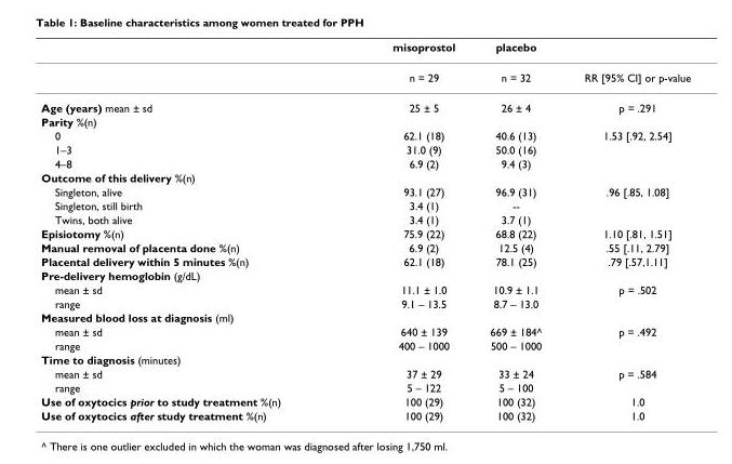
<table><thead><tr><td></td><td>misoprostol</td><td>placebo</td><td></td></tr></thead><tbody><tr><td></td><td>n = 29</td><td>n = 32</td><td>RR [95% CI] or p-value</td></tr><tr><td>Age (years) mean ± sd</td><td>25 ± 5</td><td>26 ± 4</td><td>p = .291</td></tr><tr><td colspan="4">Parity %(n)</td></tr><tr><td>0</td><td>62.1 (18)</td><td>40.6 (13)</td><td>1.53 [.92, 2.54]</td></tr><tr><td>1–3</td><td>31.0 (9)</td><td>50.0 (16)</td><td></td></tr><tr><td>4–8</td><td>6.9 (2)</td><td>9.4 (3)</td><td></td></tr><tr><td colspan="4">Outcome of this delivery %(n)</td></tr><tr><td>Singleton, alive</td><td>93.1 (27)</td><td>96.9 (31)</td><td>.96 [.85, 1.08]</td></tr><tr><td>Singleton, still birth</td><td>3.4 (1)</td><td>--</td><td></td></tr><tr><td>Twins, both alive</td><td>3.4 (1)</td><td>3.7 (1)</td><td></td></tr><tr><td>Episiotomy %(n)</td><td>75.9 (22)</td><td>68.8 (22)</td><td>1.10 [.81, 1.51]</td></tr><tr><td>Manual removal of placenta done %(n)</td><td>6.9 (2)</td><td>12.5 (4)</td><td>.55 [.11, 2.79]</td></tr><tr><td>Placental delivery within 5 minutes %(n)</td><td>62.1 (18)</td><td>78.1 (25)</td><td>.79 [.57,1.11]</td></tr><tr><td colspan="4">Pre-delivery hemoglobin (g/dL)</td></tr><tr><td>mean ± sd</td><td>11.1 ± 1.0</td><td>10.9 ± 1.1</td><td>p = .502</td></tr><tr><td>range</td><td>9.1 – 13.5</td><td>8.7 – 13.0</td><td></td></tr><tr><td colspan="4">Measured blood loss at diagnosis (ml)</td></tr><tr><td>mean ± sd</td><td>640 ± 139</td><td>669 ± 184^</td><td>p = .492</td></tr><tr><td>range</td><td>400 – 1000</td><td>500 – 1000</td><td></td></tr><tr><td colspan="4">Time to diagnosis (minutes)</td></tr><tr><td>mean ± sd</td><td>37 ± 29</td><td>33 ± 24</td><td>p = .584</td></tr><tr><td>range</td><td>5 – 122</td><td>5 – 100</td><td></td></tr><tr><td>Use of oxytocics prior to study treatment %(n)</td><td>100 (29)</td><td>100 (32)</td><td>1.0</td></tr><tr><td>Use of oxytocics after study treatment %(n)</td><td>100 (29)</td><td>100 (32)</td><td>1.0</td></tr></tbody></table>